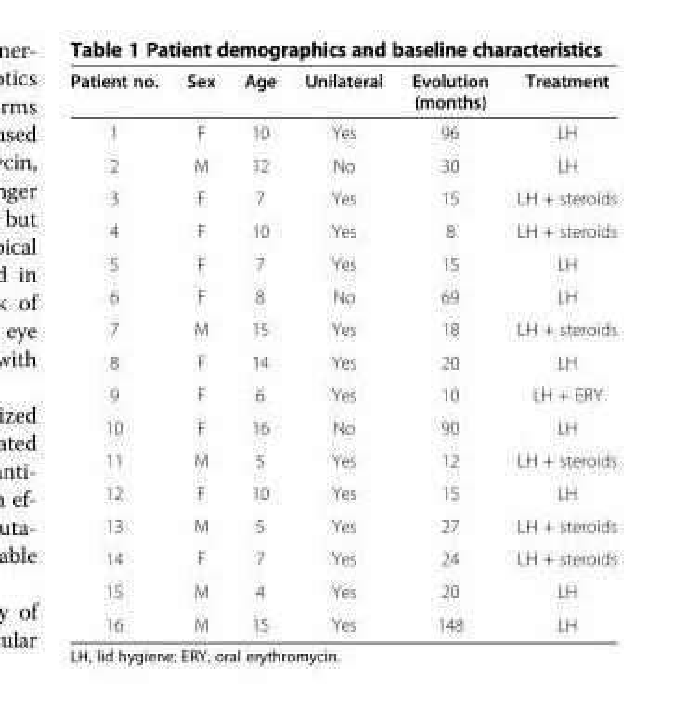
<table><thead><tr><td>Patient no.</td><td>Sex</td><td>Age</td><td>Unilateral</td><td>Evolution (months)</td><td>Treatment</td></tr></thead><tbody><tr><td>1</td><td>F</td><td>10</td><td>Yes</td><td>96</td><td>LH</td></tr><tr><td>2</td><td>M</td><td>12</td><td>No</td><td>30</td><td>LH</td></tr><tr><td>3</td><td>F</td><td>7</td><td>Yes</td><td>15</td><td>LH + steroids</td></tr><tr><td>4</td><td>F</td><td>10</td><td>Yes</td><td>8</td><td>LH + steroids</td></tr><tr><td>5</td><td>F</td><td>7</td><td>Yes</td><td>15</td><td>LH</td></tr><tr><td>6</td><td>F</td><td>8</td><td>No</td><td>69</td><td>LH</td></tr><tr><td>7</td><td>M</td><td>15</td><td>Yes</td><td>18</td><td>LH + steroids</td></tr><tr><td>8</td><td>F</td><td>14</td><td>Yes</td><td>20</td><td>LH</td></tr><tr><td>9</td><td>F</td><td>6</td><td>Yes</td><td>10</td><td>LH + ERY</td></tr><tr><td>10</td><td>F</td><td>16</td><td>No</td><td>90</td><td>LH</td></tr><tr><td>11</td><td>M</td><td>5</td><td>Yes</td><td>12</td><td>LH + steroids</td></tr><tr><td>12</td><td>F</td><td>10</td><td>Yes</td><td>15</td><td>LH</td></tr><tr><td>13</td><td>M</td><td>5</td><td>Yes</td><td>27</td><td>LH + steroids</td></tr><tr><td>14</td><td>F</td><td>7</td><td>Yes</td><td>24</td><td>LH + steroids</td></tr><tr><td>15</td><td>M</td><td>4</td><td>Yes</td><td>20</td><td>LH</td></tr><tr><td>16</td><td>M</td><td>15</td><td>Yes</td><td>148</td><td>LH</td></tr></tbody></table>